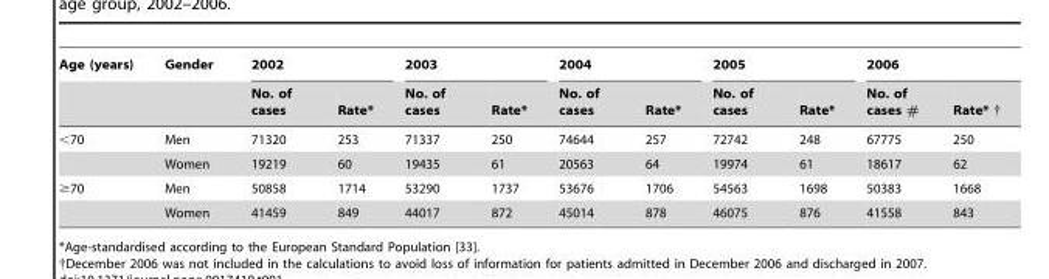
<table><thead><tr><td rowspan="2">Age (years)</td><td rowspan="2">Gender</td><td colspan="2">2002</td><td colspan="2">2003</td><td colspan="2">2004</td><td colspan="2">2005</td><td colspan="2">2006</td></tr><tr><td>No. of cases</td><td>Rate*</td><td>No. of cases</td><td>Rate*</td><td>No. of cases</td><td>Rate*</td><td>No. of cases</td><td>Rate*</td><td>No. of cases #</td><td>Rate*</td></tr></thead><tbody><tr><td rowspan="2">&lt;70</td><td>Men</td><td>71320</td><td>253</td><td>71337</td><td>250</td><td>74644</td><td>257</td><td>72742</td><td>248</td><td>67775</td><td>250</td></tr><tr><td>Women</td><td>19219</td><td>60</td><td>19435</td><td>61</td><td>20563</td><td>64</td><td>19974</td><td>61</td><td>18617</td><td>62</td></tr><tr><td rowspan="2">≥70</td><td>Men</td><td>50858</td><td>1714</td><td>53290</td><td>1737</td><td>53676</td><td>1706</td><td>54563</td><td>1698</td><td>50383</td><td>1668</td></tr><tr><td>Women</td><td>41459</td><td>849</td><td>44017</td><td>872</td><td>45014</td><td>878</td><td>46075</td><td>876</td><td>41558</td><td>843</td></tr></tbody></table>